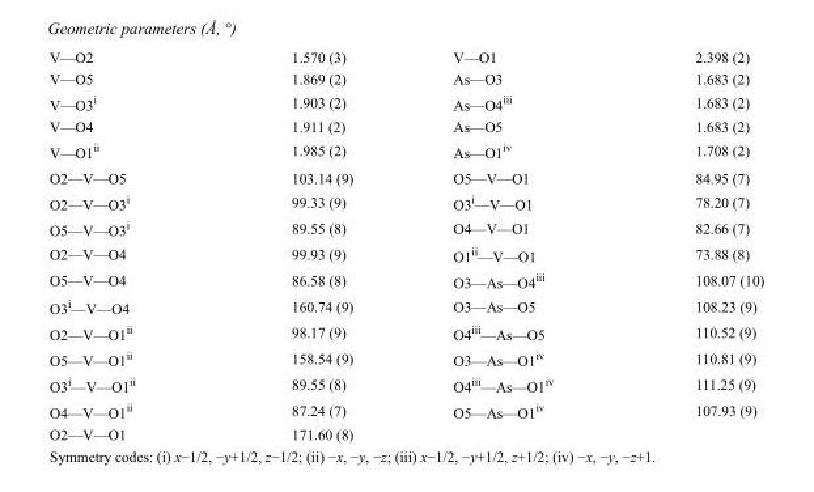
<table><tbody><tr><td>V—O2</td><td>1.570 (3)</td><td>V—O1</td><td>2.398 (2)</td></tr><tr><td>V—O5</td><td>1.869 (2)</td><td>As—O3</td><td>1.683 (2)</td></tr><tr><td>V—O3<sup>i</sup></td><td>1.903 (2)</td><td>As—O4<sup>iii</sup></td><td>1.683 (2)</td></tr><tr><td>V—O4</td><td>1.911 (2)</td><td>As—O5</td><td>1.683 (2)</td></tr><tr><td>V—O1<sup>ii</sup></td><td>1.985 (2)</td><td>As—O1<sup>iv</sup></td><td>1.708 (2)</td></tr><tr><td>O2—V—O5</td><td>103.14 (9)</td><td>O5—V—O1</td><td>84.95 (7)</td></tr><tr><td>O2—V—O3<sup>i</sup></td><td>99.33 (9)</td><td>O3<sup>i</sup>—V—O1</td><td>78.20 (7)</td></tr><tr><td>O5—V—O3<sup>i</sup></td><td>89.55 (8)</td><td>O4—V—O1</td><td>82.66 (7)</td></tr><tr><td>O2—V—O4</td><td>99.93 (9)</td><td>O1<sup>ii</sup>—V—O1</td><td>73.88 (8)</td></tr><tr><td>O5—V—O4</td><td>86.58 (8)</td><td>O3—As—O4<sup>iii</sup></td><td>108.07 (10)</td></tr><tr><td>O3<sup>i</sup>—V—O4</td><td>160.74 (9)</td><td>O3—As—O5</td><td>108.23 (9)</td></tr><tr><td>O2—V—O1<sup>ii</sup></td><td>98.17 (9)</td><td>O4<sup>iii</sup>—As—O5</td><td>110.52 (9)</td></tr><tr><td>O5—V—O1<sup>ii</sup></td><td>158.54 (9)</td><td>O3—As—O1<sup>iv</sup></td><td>110.81 (9)</td></tr><tr><td>O3<sup>i</sup>—V—O1<sup>ii</sup></td><td>89.55 (8)</td><td>O4<sup>iii</sup>—As—O1<sup>iv</sup></td><td>111.25 (9)</td></tr><tr><td>O4—V—O1<sup>ii</sup></td><td>87.24 (7)</td><td>O5—As—O1<sup>iv</sup></td><td>107.93 (9)</td></tr><tr><td>O2—V—O1</td><td>171.60 (8)</td><td></td><td></td></tr></tbody></table>